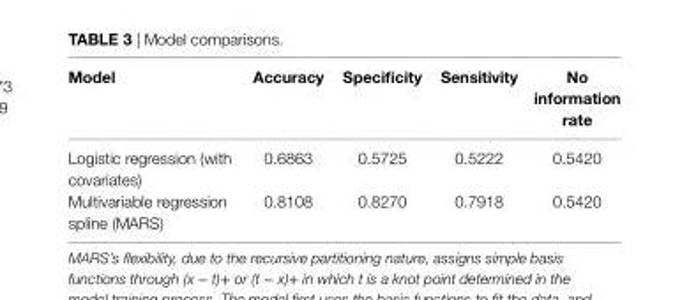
<table><thead><tr><td>Model</td><td>accuracy</td><td>specificity</td><td>sensitivity</td><td>no information rate</td></tr></thead><tbody><tr><td>Logistic regression (with covariates)</td><td>0.6863</td><td>0.5725</td><td>0.5222</td><td>0.5420</td></tr><tr><td>Multivariable regression spline (MARS)</td><td>0.8108</td><td>0.8270</td><td>0.7918</td><td>0.5420</td></tr></tbody></table>